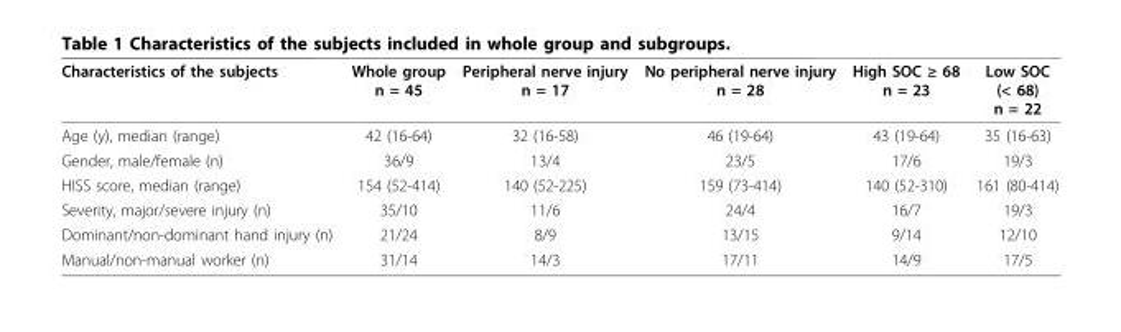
<table><thead><tr><td>Characteristics of the subjects</td><td>Whole group n = 45</td><td>Peripheral nerve injury n = 17</td><td>No peripheral nerve injury n = 28</td><td>High SOC ≥ 68 n = 23</td><td>Low SOC (&lt; 68) n = 22</td></tr></thead><tbody><tr><td>Age (y), median (range)</td><td>42 (16-64)</td><td>32 (16-58)</td><td>46 (19-64)</td><td>43 (19-64)</td><td>35 (16-63)</td></tr><tr><td>Gender, male/female (n)</td><td>36/9</td><td>13/4</td><td>23/5</td><td>17/6</td><td>19/3</td></tr><tr><td>HISS score, median (range)</td><td>154 (52-414)</td><td>140 (52-225)</td><td>159 (73-414)</td><td>140 (52-310)</td><td>161 (80-414)</td></tr><tr><td>Severity, major/severe injury (n)</td><td>35/10</td><td>11/6</td><td>24/4</td><td>16/7</td><td>19/3</td></tr><tr><td>Dominant/non-dominant hand injury (n)</td><td>21/24</td><td>8/9</td><td>13/15</td><td>9/14</td><td>12/10</td></tr><tr><td>Manual/non-manual worker (n)</td><td>31/14</td><td>14/3</td><td>17/11</td><td>14/9</td><td>17/5</td></tr></tbody></table>